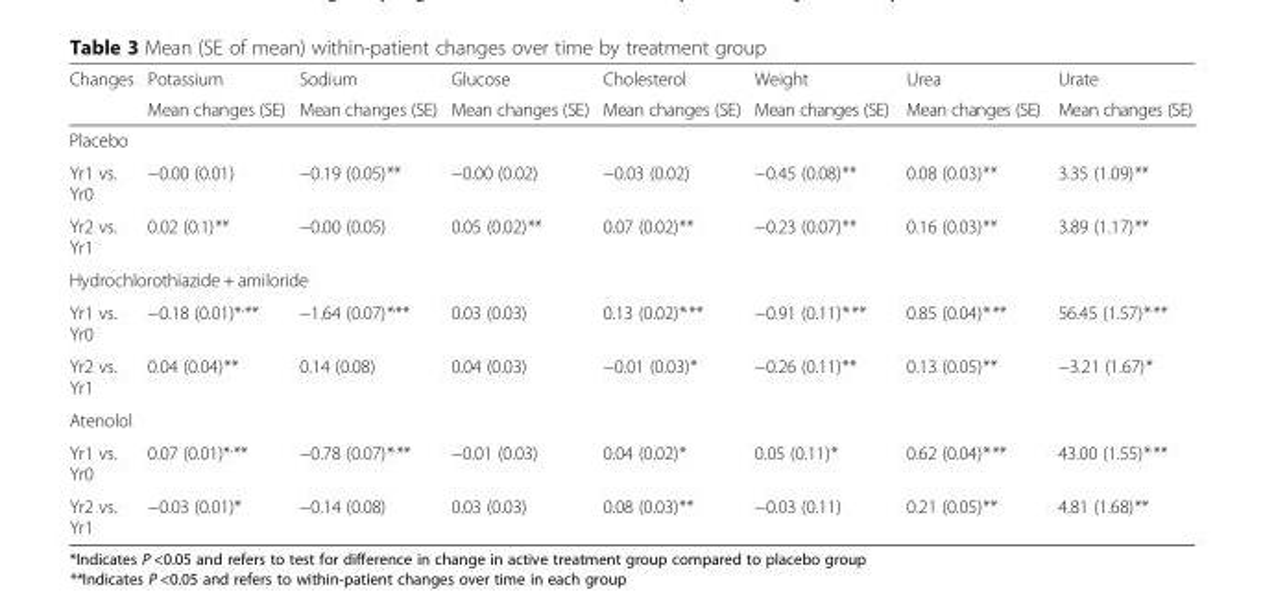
<table><thead><tr><td rowspan="2">Changes</td><td rowspan="2">Potassium Mean changes (SE)</td><td rowspan="2">Sodium Mean changes (SE)</td><td rowspan="2">Glucose Mean changes (SE)</td><td rowspan="2">Cholesterol Mean changes (SE)</td><td rowspan="2">Weight Mean changes (SE)</td><td rowspan="2">Urea Mean changes (SE)</td><td rowspan="2">Urate Mean changes (SE)</td></tr><tr></tr></thead><tbody><tr><td colspan="8">Placebo</td></tr><tr><td>Yr1 vs. Yr0</td><td>−0.00 (0.01)</td><td>−0.19 (0.05)**</td><td>−0.00 (0.02)</td><td>−0.03 (0.02)</td><td>−0.45 (0.08)**</td><td>0.08 (0.03)**</td><td>3.35 (1.09)**</td></tr><tr><td>Yr2 vs. Yr1</td><td>0.02 (0.1)**</td><td>−0.00 (0.05)</td><td>0.05 (0.02)**</td><td>0.07 (0.02)**</td><td>−0.23 (0.07)**</td><td>0.16 (0.03)**</td><td>3.89 (1.17)**</td></tr><tr><td colspan="8">Hydrochlorothiazide + amiloride</td></tr><tr><td>Yr1 vs. Yr0</td><td>−0.18 (0.01)*<sup>,</sup>**</td><td>−1.64 (0.07)*<sup>,</sup>**</td><td>0.03 (0.03)</td><td>0.13 (0.02)*,**</td><td>−0.91 (0.11)*,**</td><td>0.85 (0.04)*,**</td><td>56.45 (1.57)*,**</td></tr><tr><td>Yr2 vs. Yr1</td><td>0.04 (0.04)**</td><td>0.14 (0.08)</td><td>0.04 (0.03)</td><td>−0.01 (0.03)*</td><td>−0.26 (0.11)**</td><td>0.13 (0.05)**</td><td>−3.21 (1.67)*</td></tr><tr><td colspan="8">Atenolol</td></tr><tr><td>Yr1 vs. Yr0</td><td>0.07 (0.01)*<sup>,</sup>**</td><td>−0.78 (0.07)*,**</td><td>−0.01 (0.03)</td><td>0.04 (0.02)*</td><td>0.05 (0.11)*</td><td>0.62 (0.04)*,**</td><td>43.00 (1.55)*,**</td></tr><tr><td>Yr2 vs. Yr1</td><td>−0.03 (0.01)*</td><td>−0.14 (0.08)</td><td>0.03 (0.03)</td><td>0.08 (0.03)**</td><td>−0.03 (0.11)</td><td>0.21 (0.05)**</td><td>4.81 (1.68)**</td></tr></tbody></table>